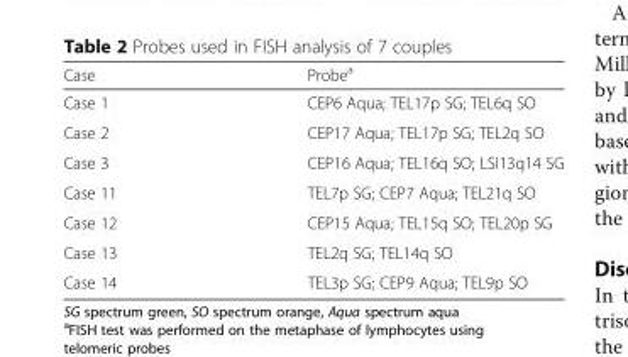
<table><thead><tr><td>Case</td><td>Probe<sup>a</sup></td></tr></thead><tbody><tr><td>Case 1</td><td>CEP6 Aqua; TEL17p SG; TEL6q SO</td></tr><tr><td>Case 2</td><td>CEP17 Aqua; TEL17p SG; TEL2q SO</td></tr><tr><td>Case 3</td><td>CEP16 Aqua; TEL16q SO; LSI13q14 SG</td></tr><tr><td>Case 11</td><td>TEL7p SG; CEP7 Aqua; TEL21q SO</td></tr><tr><td>Case 12</td><td>CEP15 Aqua; TEL15q SO; TEL20p SG</td></tr><tr><td>Case 13</td><td>TEL2q SG; TEL14q SO</td></tr><tr><td>Case 14</td><td>TEL3p SG; CEP9 Aqua; TEL9p SO</td></tr></tbody></table>